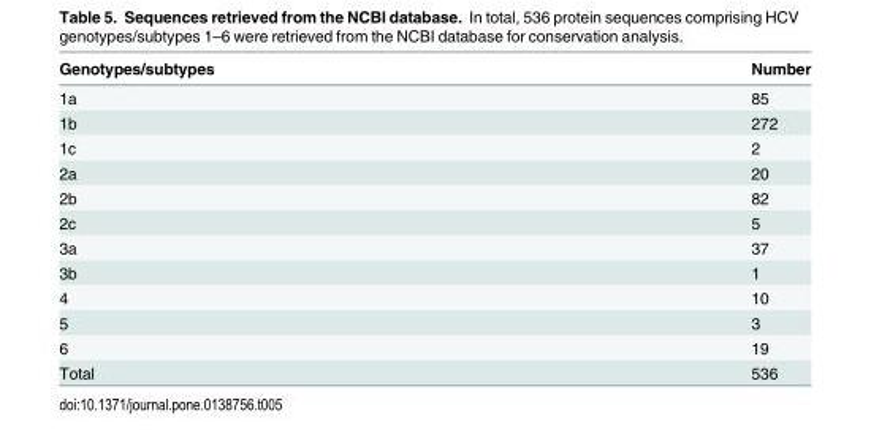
<table><thead><tr><td>Genotypes/subtypes</td><td>Number</td></tr></thead><tbody><tr><td>1a</td><td>85</td></tr><tr><td>1b</td><td>272</td></tr><tr><td>1c</td><td>2</td></tr><tr><td>2a</td><td>20</td></tr><tr><td>2b</td><td>82</td></tr><tr><td>2c</td><td>5</td></tr><tr><td>3a</td><td>37</td></tr><tr><td>3b</td><td>1</td></tr><tr><td>4</td><td>10</td></tr><tr><td>5</td><td>3</td></tr><tr><td>6</td><td>19</td></tr><tr><td>Total</td><td>536</td></tr></tbody></table>